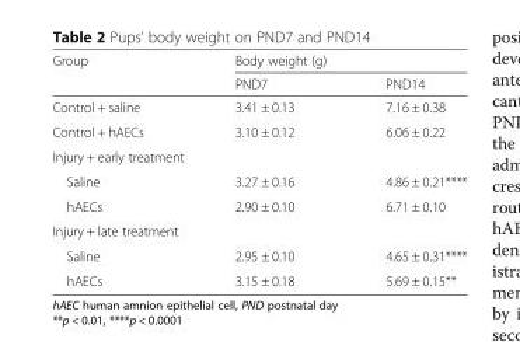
<table><thead><tr><td rowspan="2">Group</td><td colspan="2">Body weight (g)</td></tr><tr><td>PND7</td><td>PND14</td></tr></thead><tbody><tr><td>Control + saline</td><td>3.41 ± 0.13</td><td>7.16 ± 0.38</td></tr><tr><td>Control + hAECs</td><td>3.10 ± 0.12</td><td>6.06 ± 0.22</td></tr><tr><td colspan="3">Injury + early treatment</td></tr><tr><td>Saline</td><td>3.27 ± 0.16</td><td>4.86 ± 0.21****</td></tr><tr><td>hAECs</td><td>2.90 ± 0.10</td><td>6.71 ± 0.10</td></tr><tr><td colspan="3">Injury + late treatment</td></tr><tr><td>Saline</td><td>2.95 ± 0.10</td><td>4.65 ± 0.31****</td></tr><tr><td>hAECs</td><td>3.15 ± 0.18</td><td>5.69 ± 0.15**</td></tr></tbody></table>